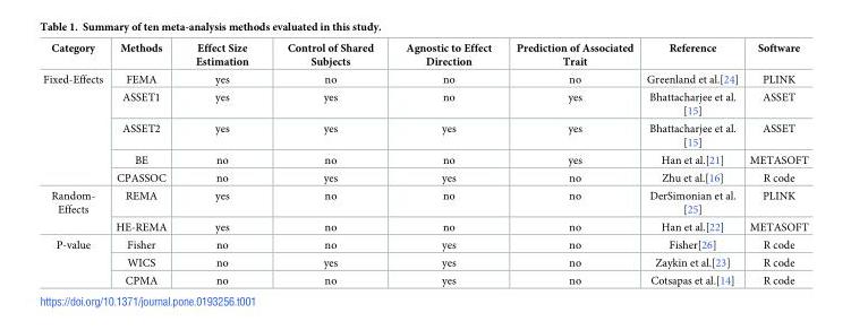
<table><thead><tr><td>Category</td><td>Methods</td><td>Effect Size Estimation</td><td>Control of Shared Subjects</td><td>Agnostic to Effect Direction</td><td>Prediction of Associated Trait</td><td>Reference</td><td>Software</td></tr></thead><tbody><tr><td rowspan="5">Fixed-Effects</td><td>FEMA</td><td>yes</td><td>no</td><td>no</td><td>no</td><td>Greenland et al.[24]</td><td>PLINK</td></tr><tr><td>ASSET1</td><td>yes</td><td>yes</td><td>no</td><td>yes</td><td>Bhattacharjee et al. [15]</td><td>ASSET</td></tr><tr><td>ASSET2</td><td>yes</td><td>yes</td><td>yes</td><td>yes</td><td>Bhattacharjee et al. [15]</td><td>ASSET</td></tr><tr><td>BE</td><td>no</td><td>no</td><td>no</td><td>yes</td><td>Han et al.[21]</td><td>METASOFT</td></tr><tr><td>CPASSOC</td><td>no</td><td>yes</td><td>yes</td><td>no</td><td>Zhu et al.[16]</td><td>R code</td></tr><tr><td rowspan="2">Random- Effects</td><td>REMA</td><td>yes</td><td>no</td><td>no</td><td>no</td><td>DerSimonian et al. [25]</td><td>PLINK</td></tr><tr><td>HE-REMA</td><td>yes</td><td>no</td><td>no</td><td>no</td><td>Han et al.[22]</td><td>METASOFT</td></tr><tr><td rowspan="3">P-value</td><td>Fisher</td><td>no</td><td>no</td><td>yes</td><td>no</td><td>Fisher[26]</td><td>R code</td></tr><tr><td>WICS</td><td>no</td><td>yes</td><td>yes</td><td>no</td><td>Zaykin et al.[23]</td><td>R code</td></tr><tr><td>CPMA</td><td>no</td><td>no</td><td>yes</td><td>no</td><td>Cotsapas et al.[14]</td><td>R code</td></tr></tbody></table>